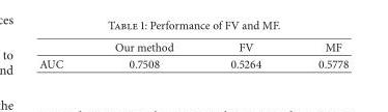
<table><thead><tr><td></td><td>Our method</td><td>FV</td><td>MF</td></tr></thead><tbody><tr><td>AUC</td><td>0.7508</td><td>0.5264</td><td>0.5778</td></tr></tbody></table>